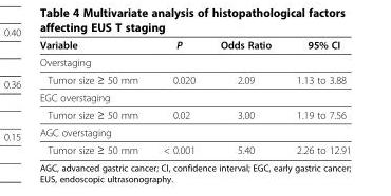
<table><thead><tr><td>Variable</td><td>P</td><td>Odds Ratio</td><td>95% CI</td></tr></thead><tbody><tr><td colspan="4">Overstaging</td></tr><tr><td>Tumor size ≥ 50 mm</td><td>0.020</td><td>2.09</td><td>1.13 to 3.88</td></tr><tr><td colspan="4">EGC overstaging</td></tr><tr><td>Tumor size ≥ 50 mm</td><td>0.02</td><td>3.00</td><td>1.19 to 7.56</td></tr><tr><td colspan="4">AGC overstaging</td></tr><tr><td>Tumor size ≥ 50 mm</td><td>&lt; 0.001</td><td>5.40</td><td>2.26 to 12.91</td></tr></tbody></table>